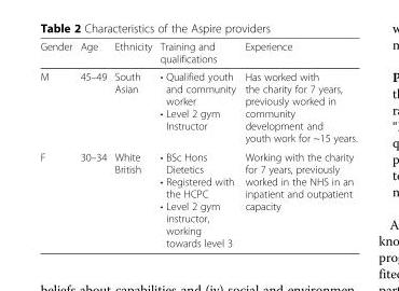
<table><thead><tr><td>Gender</td><td>Age</td><td>Ethnicity</td><td>Training and qualifications</td><td>Experience</td></tr></thead><tbody><tr><td>M</td><td>45–49</td><td>South Asian</td><td>• Qualified youth and community worker • Level 2 gym Instructor</td><td>Has worked with the charity for 7 years, previously worked in community development and youth work for ~15 years.</td></tr><tr><td>F</td><td>30–34</td><td>White British</td><td>• BSc Hons Dietetics • Registered with the HCPC • Level 2 gym instructor, working towards level 3</td><td>Working with the charity for 7 years, previously worked in the NHS in an inpatient and outpatient capacity</td></tr></tbody></table>